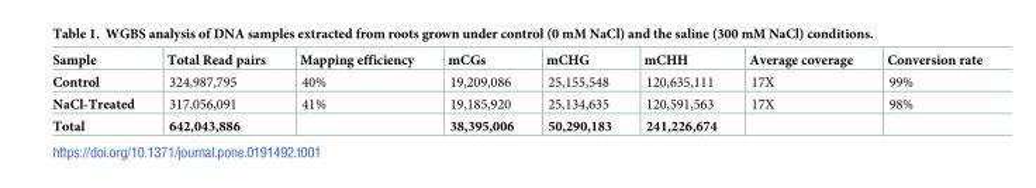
<table><thead><tr><td>Sample</td><td>Total Read pairs</td><td>Mapping efficiency</td><td>mCGs</td><td>mCHG</td><td>mCHH</td><td>Average coverage</td><td>Conversion rate</td></tr></thead><tbody><tr><td>Control</td><td>324,987,795</td><td>40%</td><td>19,209,086</td><td>25,155,548</td><td>120,635,111</td><td>17X</td><td>99%</td></tr><tr><td>NaCl-Treated</td><td>317,056,091</td><td>41%</td><td>19,185,920</td><td>25,134,635</td><td>120,591,563</td><td>17X</td><td>98%</td></tr><tr><td>Total</td><td>642,043,886</td><td></td><td>38,395,006</td><td>50,290,183</td><td>241,226,674</td><td></td><td></td></tr></tbody></table>